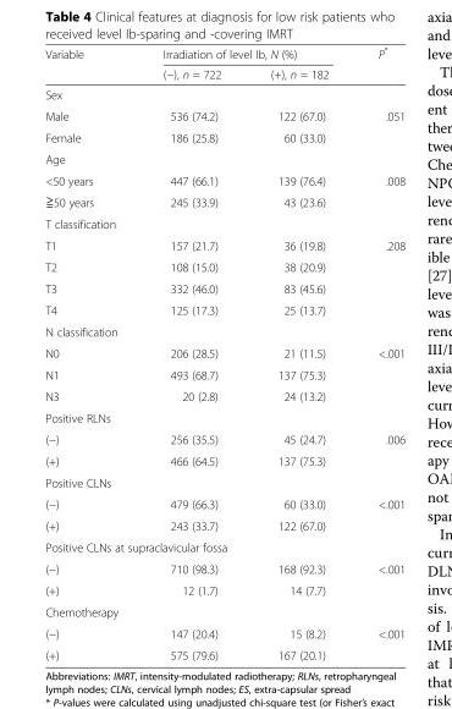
<table><thead><tr><td rowspan="2">Variable</td><td colspan="2">Irradiation of level Ib, N (%)</td><td rowspan="2">P*</td></tr><tr><td>(−), n = 722</td><td>(+), n = 182</td></tr></thead><tbody><tr><td colspan="4">Sex</td></tr><tr><td>Male</td><td>536 (74.2)</td><td>122 (67.0)</td><td rowspan="2">.051</td></tr><tr><td>Female</td><td>186 (25.8)</td><td>60 (33.0)</td></tr><tr><td colspan="4">Age</td></tr><tr><td>&lt;50 years</td><td>447 (66.1)</td><td>139 (76.4)</td><td rowspan="2">.008</td></tr><tr><td>≧50 years</td><td>245 (33.9)</td><td>43 (23.6)</td></tr><tr><td colspan="4">T classification</td></tr><tr><td>T1</td><td>157 (21.7)</td><td>36 (19.8)</td><td rowspan="4">.208</td></tr><tr><td>T2</td><td>108 (15.0)</td><td>38 (20.9)</td></tr><tr><td>T3</td><td>332 (46.0)</td><td>83 (45.6)</td></tr><tr><td>T4</td><td>125 (17.3)</td><td>25 (13.7)</td></tr><tr><td colspan="4">N classification</td></tr><tr><td>N0</td><td>206 (28.5)</td><td>21 (11.5)</td><td rowspan="3">&lt;.001</td></tr><tr><td>N1</td><td>493 (68.7)</td><td>137 (75.3)</td></tr><tr><td>N3</td><td>20 (2.8)</td><td>24 (13.2)</td></tr><tr><td colspan="4">Positive RLNs</td></tr><tr><td>(−)</td><td>256 (35.5)</td><td>45 (24.7)</td><td rowspan="2">.006</td></tr><tr><td>(+)</td><td>466 (64.5)</td><td>137 (75.3)</td></tr><tr><td colspan="4">Positive CLNs</td></tr><tr><td>(−)</td><td>479 (66.3)</td><td>60 (33.0)</td><td rowspan="2">&lt;.001</td></tr><tr><td>(+)</td><td>243 (33.7)</td><td>122 (67.0)</td></tr><tr><td colspan="4">Positive CLNs at supraclavicular fossa</td></tr><tr><td>(−)</td><td>710 (98.3)</td><td>168 (92.3)</td><td>&lt;.001</td></tr><tr><td>(+)</td><td>12 (1.7)</td><td>14 (7.7)</td><td></td></tr><tr><td colspan="4">Chemotherapy</td></tr><tr><td>(−)</td><td>147 (20.4)</td><td>15 (8.2)</td><td rowspan="2">&lt;.001</td></tr><tr><td>(+)</td><td>575 (79.6)</td><td>167 (20.1)</td></tr></tbody></table>